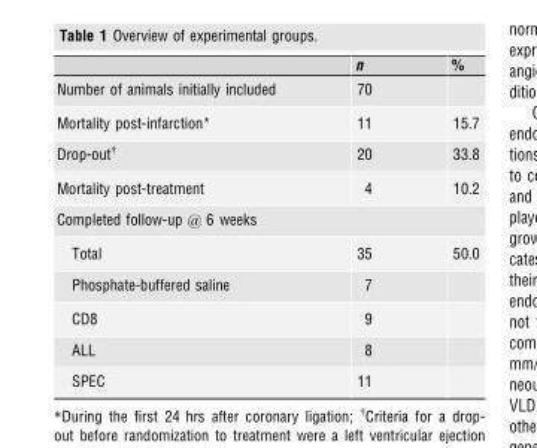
<table><thead><tr><td></td><td>n</td><td>%</td></tr></thead><tbody><tr><td>Number of animals initially included</td><td>70</td><td></td></tr><tr><td>Mortality post-infarction*</td><td>11</td><td>15.7</td></tr><tr><td>Drop-out†</td><td>20</td><td>33.8</td></tr><tr><td>Mortality post-treatment</td><td>4</td><td>10.2</td></tr><tr><td colspan="3">Completed follow-up @ 6 weeks</td></tr><tr><td>Total</td><td>35</td><td>50.0</td></tr><tr><td>Phosphate-buffered saline</td><td>7</td><td></td></tr><tr><td>CD8</td><td>9</td><td></td></tr><tr><td>ALL</td><td>8</td><td></td></tr><tr><td>SPEC</td><td>11</td><td></td></tr></tbody></table>